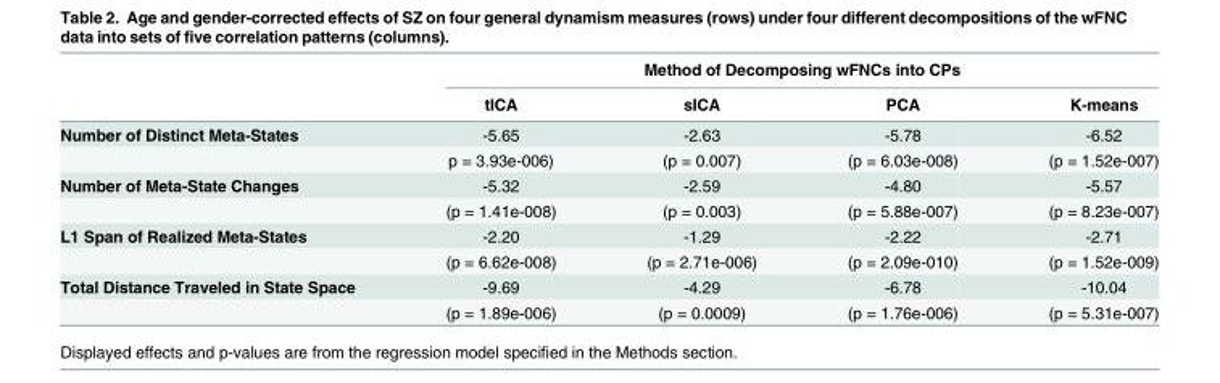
<table><thead><tr><td rowspan="2"></td><td colspan="4">Method of Decomposing wFNCs into CPs</td></tr><tr><td>tICA</td><td>sICA</td><td>PCA</td><td>K-means</td></tr></thead><tbody><tr><td rowspan="2">Number of Distinct Meta-States</td><td>-5.65</td><td>-2.63</td><td>-5.78</td><td>-6.52</td></tr><tr><td>p = 3.93e-006)</td><td>(p = 0.007)</td><td>(p = 6.03e-008)</td><td>(p = 1.52e-007)</td></tr><tr><td rowspan="2">Number of Meta-State Changes</td><td>-5.32</td><td>-2.59</td><td>-4.80</td><td>-5.57</td></tr><tr><td>(p = 1.41e-008)</td><td>(p = 0.003)</td><td>(p = 5.88e-007)</td><td>(p = 8.23e-007)</td></tr><tr><td rowspan="2">L1 Span of Realized Meta-States</td><td>-2.20</td><td>-1.29</td><td>-2.22</td><td>-2.71</td></tr><tr><td>(p = 6.62e-008)</td><td>(p = 2.71e-006)</td><td>(p = 2.09e-010)</td><td>(p = 1.52e-009)</td></tr><tr><td rowspan="2">Total Distance Traveled in State Space</td><td>-9.69</td><td>-4.29</td><td>-6.78</td><td>-10.04</td></tr><tr><td>(p = 1.89e-006)</td><td>(p = 0.0009)</td><td>(p = 1.76e-006)</td><td>(p = 5.31e-007)</td></tr></tbody></table>